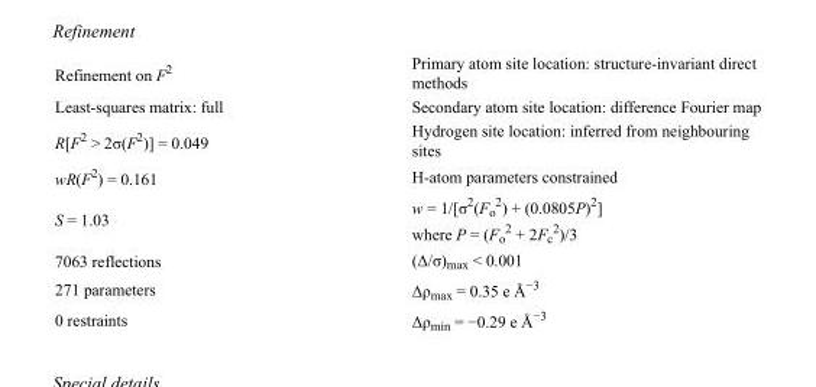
<table><tbody><tr><td>Refinement on F<sup>2</sup></td><td>Primary atom site location: structure-invariant direct methods</td></tr><tr><td>Least-squares matrix: full</td><td>Secondary atom site location: difference Fourier map</td></tr><tr><td>R[F<sup>2</sup> &gt; 2σ(F<sup>2</sup>)] = 0.049</td><td>Hydrogen site location: inferred from neighbouring sites</td></tr><tr><td>wR(F<sup>2</sup>) = 0.161</td><td>H-atom parameters constrained</td></tr><tr><td>S = 1.03</td><td>w = 1/[σ<sup>2</sup>(F<sub>o</sub> <sup>2</sup>) + (0.0805P)<sup>2</sup>] where P = (F<sub>o</sub> <sup>2</sup> + 2F<sub>c</sub> <sup>2</sup>)/3</td></tr><tr><td>7063 reflections</td><td>(Δ/σ)<sub>max</sub> &lt; 0.001</td></tr><tr><td>271 parameters</td><td>Δρ<sub>max</sub> = 0.35 e Å<sup>−3</sup></td></tr><tr><td>0 restraints</td><td>Δρ<sub>min</sub> = −0.29 e Å<sup>−3</sup></td></tr></tbody></table>